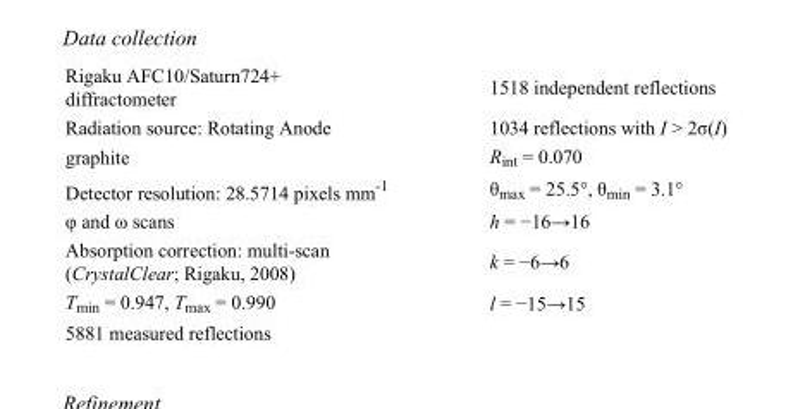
<table><tbody><tr><td>Rigaku AFC10/Saturn724+ diffractometer</td><td>1518 independent reflections</td></tr><tr><td>Radiation source: Rotating Anode</td><td>1034 reflections with I &gt; 2σ(I)</td></tr><tr><td>graphite</td><td>R<sub>int</sub> = 0.070</td></tr><tr><td>Detector resolution: 28.5714 pixels mm<sup>-1</sup></td><td>θ<sub>max</sub> = 25.5°, θ<sub>min</sub> = 3.1°</td></tr><tr><td>φ and ω scans</td><td>h = −16→16</td></tr><tr><td>Absorption correction: multi-scan (CrystalClear; Rigaku, 2008)</td><td>k = −6→6</td></tr><tr><td>T<sub>min</sub> = 0.947, T<sub>max</sub> = 0.990</td><td>l = −15→15</td></tr><tr><td>5881 measured reflections</td><td></td></tr></tbody></table>